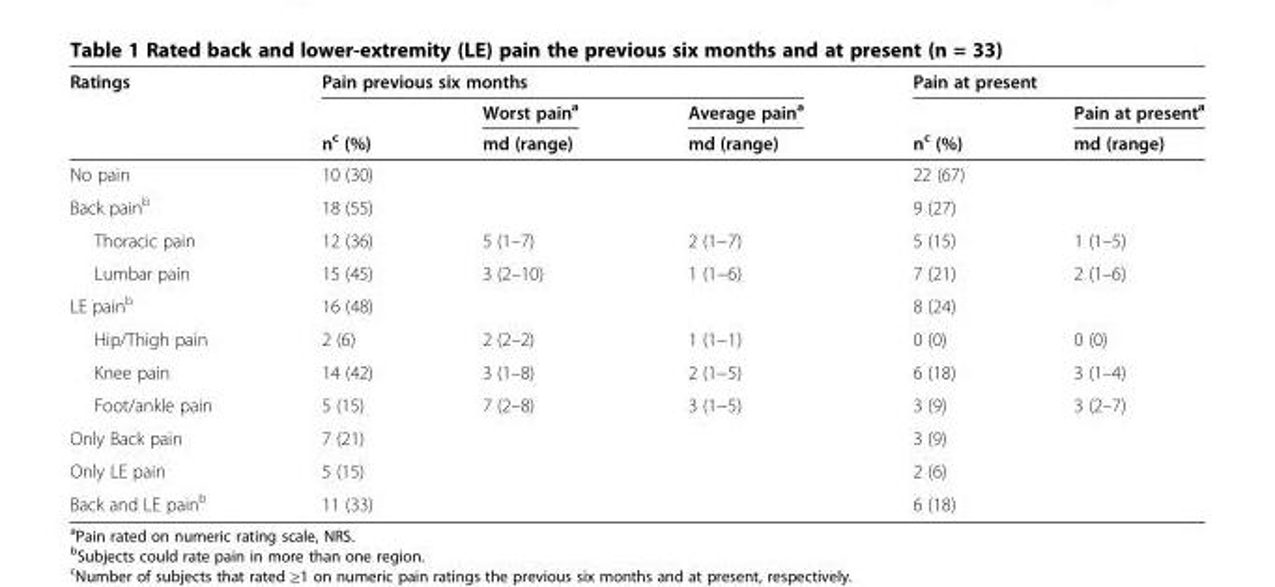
<table><thead><tr><td rowspan="3">Ratings</td><td colspan="3">Pain previous six months</td><td colspan="2">Pain at present</td></tr><tr><td rowspan="2">n<sup>c</sup> (%)</td><td rowspan="2">Worst pain<sup>a</sup> md (range)</td><td rowspan="2">Average pain<sup>a</sup> md (range)</td><td rowspan="2">n<sup>c</sup> (%)</td><td rowspan="2">Pain at present<sup>a</sup> md (range)</td></tr><tr></tr></thead><tbody><tr><td>No pain</td><td>10 (30)</td><td></td><td></td><td>22 (67)</td><td></td></tr><tr><td>Back pain<sup>b</sup></td><td>18 (55)</td><td></td><td></td><td>9 (27)</td><td></td></tr><tr><td>Thoracic pain</td><td>12 (36)</td><td>5 (1–7)</td><td>2 (1−7)</td><td>5 (15)</td><td>1 (1–5)</td></tr><tr><td>Lumbar pain</td><td>15 (45)</td><td>3 (2–10)</td><td>1 (1−6)</td><td>7 (21)</td><td>2 (1–6)</td></tr><tr><td>LE pain<sup>b</sup></td><td>16 (48)</td><td></td><td></td><td>8 (24)</td><td></td></tr><tr><td>Hip/Thigh pain</td><td>2 (6)</td><td>2 (2–2)</td><td>1 (1−1)</td><td>0 (0)</td><td>0 (0)</td></tr><tr><td>Knee pain</td><td>14 (42)</td><td>3 (1–8)</td><td>2 (1−5)</td><td>6 (18)</td><td>3 (1–4)</td></tr><tr><td>Foot/ankle pain</td><td>5 (15)</td><td>7 (2–8)</td><td>3 (1−5)</td><td>3 (9)</td><td>3 (2–7)</td></tr><tr><td>Only Back pain</td><td>7 (21)</td><td></td><td></td><td>3 (9)</td><td></td></tr><tr><td>Only LE pain</td><td>5 (15)</td><td></td><td></td><td>2 (6)</td><td></td></tr><tr><td>Back and LE pain<sup>b</sup></td><td>11 (33)</td><td></td><td></td><td>6 (18)</td><td></td></tr></tbody></table>